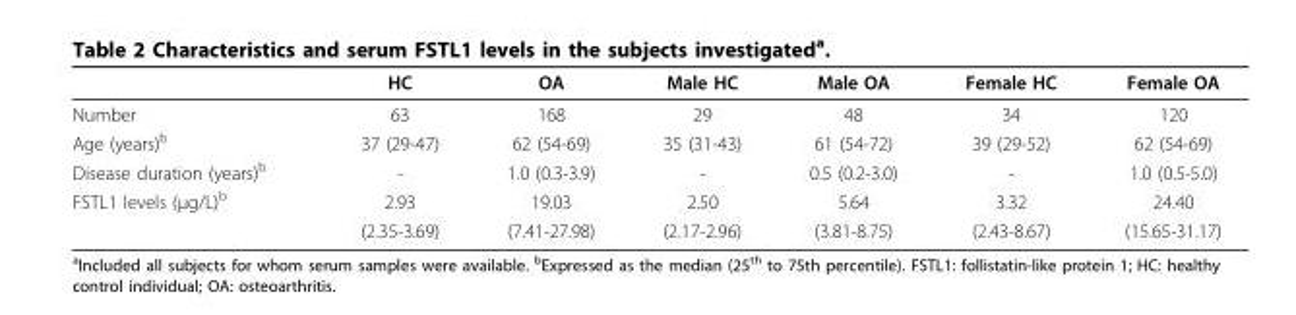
<table><thead><tr><td></td><td>HC</td><td>OA</td><td>Male HC</td><td>Male OA</td><td>Female HC</td><td>Female OA</td></tr></thead><tbody><tr><td>Number</td><td>63</td><td>168</td><td>29</td><td>48</td><td>34</td><td>120</td></tr><tr><td>Age (years)<sup>b</sup></td><td>37 (29-47)</td><td>62 (54-69)</td><td>35 (31-43)</td><td>61 (54-72)</td><td>39 (29-52)</td><td>62 (54-69)</td></tr><tr><td>Disease duration (years)<sup>b</sup></td><td>-</td><td>1.0 (0.3-3.9)</td><td>-</td><td>0.5 (0.2-3.0)</td><td>-</td><td>1.0 (0.5-5.0)</td></tr><tr><td rowspan="2">FSTL1 levels (μg/L)<sup>b</sup></td><td>2.93</td><td>19.03</td><td>2.50</td><td>5.64</td><td>3.32</td><td>24.40</td></tr><tr><td>(2.35-3.69)</td><td>(7.41-27.98)</td><td>(2.17-2.96)</td><td>(3.81-8.75)</td><td>(2.43-8.67)</td><td>(15.65-31.17)</td></tr></tbody></table>